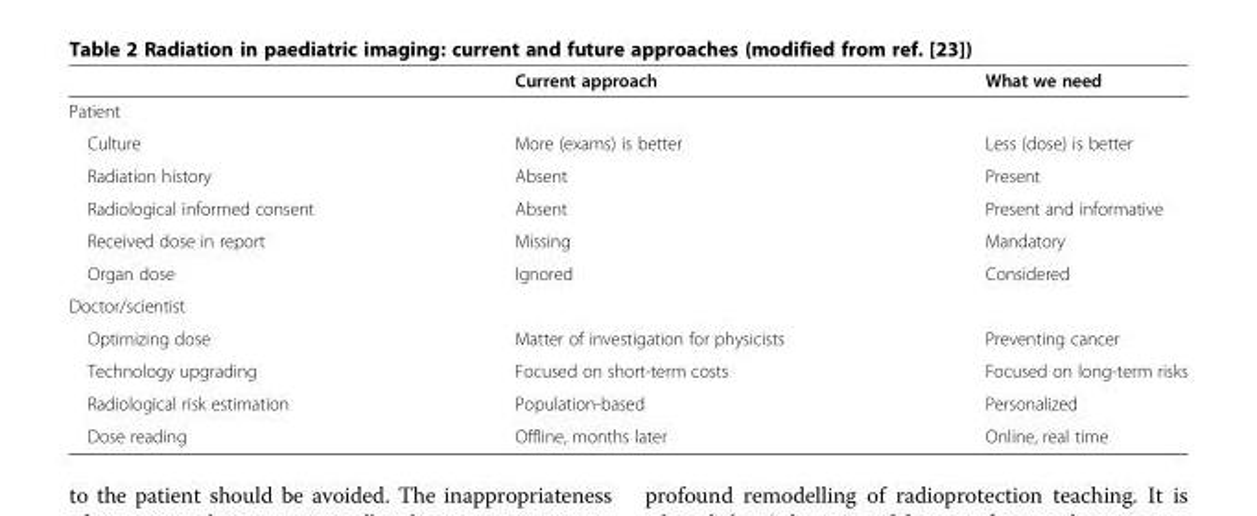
<table><thead><tr><td></td><td>Current approach</td><td>What we need</td></tr></thead><tbody><tr><td colspan="3">Patient</td></tr><tr><td>Culture</td><td>More (exams) is better</td><td>Less (dose) is better</td></tr><tr><td>Radiation history</td><td>Absent</td><td>Present</td></tr><tr><td>Radiological informed consent</td><td>Absent</td><td>Present and informative</td></tr><tr><td>Received dose in report</td><td>Missing</td><td>Mandatory</td></tr><tr><td>Organ dose</td><td>Ignored</td><td>Considered</td></tr><tr><td colspan="3">Doctor/scientist</td></tr><tr><td>Optimizing dose</td><td>Matter of investigation for physicists</td><td>Preventing cancer</td></tr><tr><td>Technology upgrading</td><td>Focused on short-term costs</td><td>Focused on long-term risks</td></tr><tr><td>Radiological risk estimation</td><td>Population-based</td><td>Personalized</td></tr><tr><td>Dose reading</td><td>Offline, months later</td><td>Online, real time</td></tr></tbody></table>